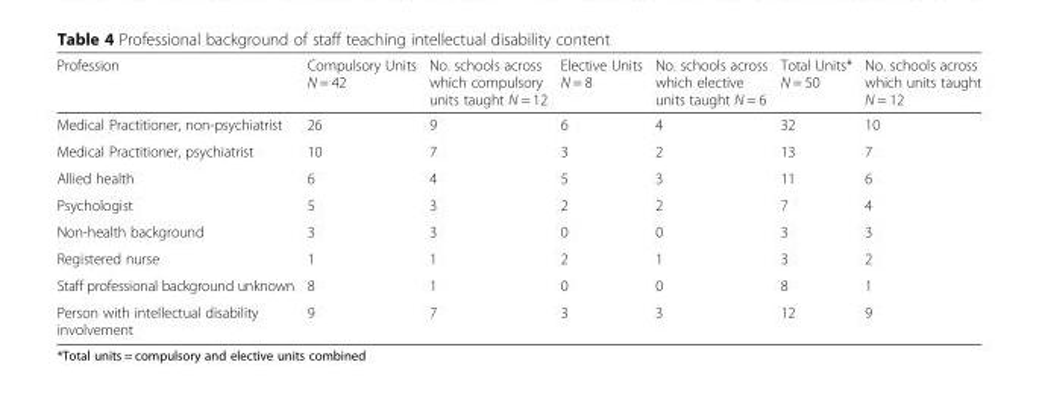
<table><thead><tr><td>Profession</td><td>Compulsory Units N = 42</td><td>No. schools across which compulsory units taught N = 12</td><td>Elective Units N = 8</td><td>No. schools across which elective units taught N = 6</td><td>Total Units* N = 50</td><td>No. schools across which units taught N = 12</td></tr></thead><tbody><tr><td>Medical Practitioner, non-psychiatrist</td><td>26</td><td>9</td><td>6</td><td>4</td><td>32</td><td>10</td></tr><tr><td>Medical Practitioner, psychiatrist</td><td>10</td><td>7</td><td>3</td><td>2</td><td>13</td><td>7</td></tr><tr><td>Allied health</td><td>6</td><td>4</td><td>5</td><td>3</td><td>11</td><td>6</td></tr><tr><td>Psychologist</td><td>5</td><td>3</td><td>2</td><td>2</td><td>7</td><td>4</td></tr><tr><td>Non-health background</td><td>3</td><td>3</td><td>0</td><td>0</td><td>3</td><td>3</td></tr><tr><td>Registered nurse</td><td>1</td><td>1</td><td>2</td><td>1</td><td>3</td><td>2</td></tr><tr><td>Staff professional background unknown</td><td>8</td><td>1</td><td>0</td><td>0</td><td>8</td><td>1</td></tr><tr><td>Person with intellectual disability involvement</td><td>9</td><td>7</td><td>3</td><td>3</td><td>12</td><td>9</td></tr></tbody></table>